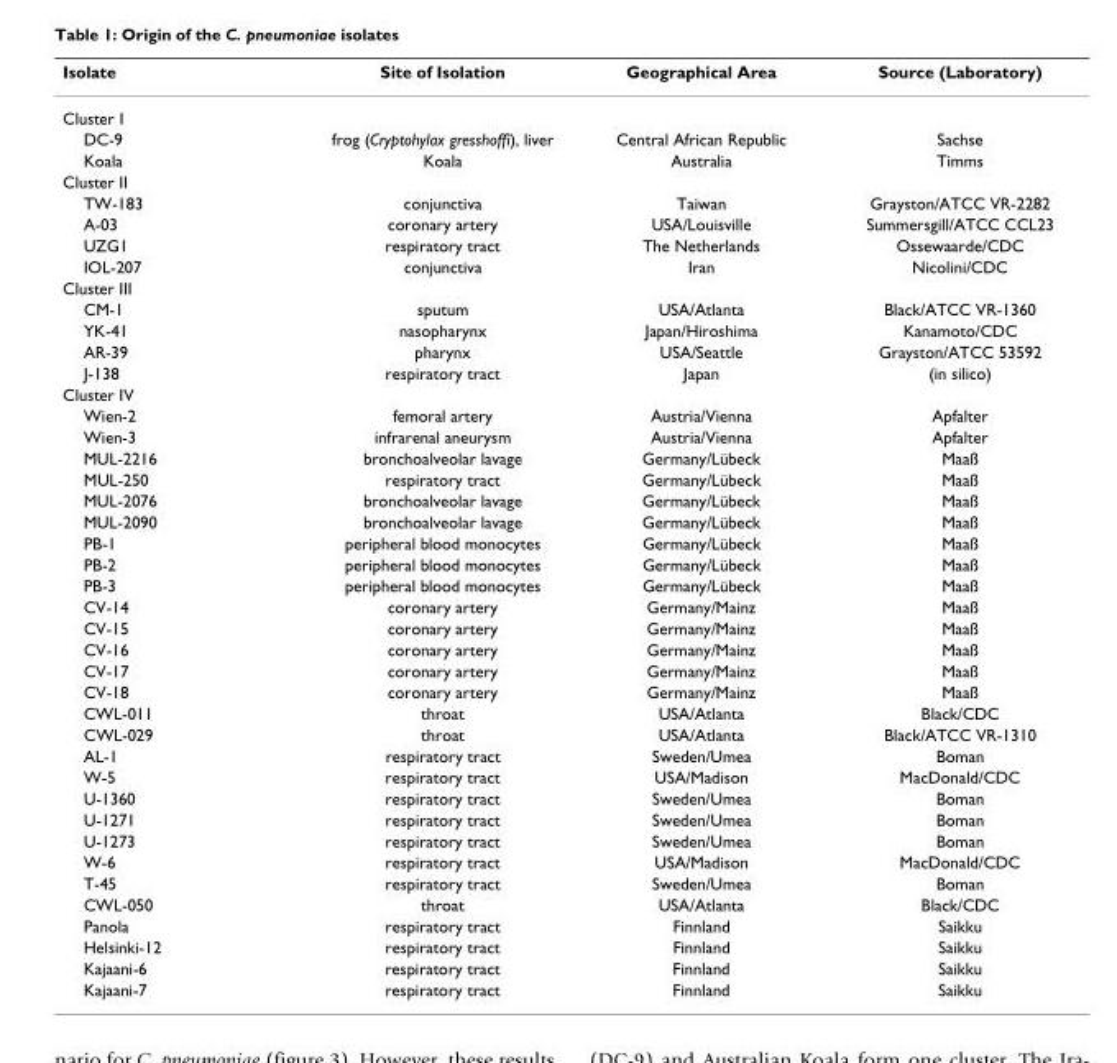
<table><thead><tr><td>Isolate</td><td>Site of Isolation</td><td>Geographical Area</td><td>Source (Laboratory)</td></tr></thead><tbody><tr><td colspan="4">Cluster I</td></tr><tr><td>DC-9</td><td>frog (Cryptohylax gresshoffi), liver</td><td>Central African Republic</td><td>Sachse</td></tr><tr><td>Koala</td><td>Koala</td><td>Australia</td><td>Timms</td></tr><tr><td colspan="4">Cluster II</td></tr><tr><td>TW-183</td><td>conjunctiva</td><td>Taiwan</td><td>Grayston/ATCC VR-2282</td></tr><tr><td>A-03</td><td>coronary artery</td><td>USA/Louisville</td><td>Summersgill/ATCC CCL23</td></tr><tr><td>UZG1</td><td>respiratory tract</td><td>The Netherlands</td><td>Ossewaarde/CDC</td></tr><tr><td>IOL-207</td><td>conjunctiva</td><td>Iran</td><td>Nicolini/CDC</td></tr><tr><td colspan="4">Cluster III</td></tr><tr><td>CM-1</td><td>sputum</td><td>USA/Atlanta</td><td>Black/ATCC VR-1360</td></tr><tr><td>YK-41</td><td>nasopharynx</td><td>Japan/Hiroshima</td><td>Kanamoto/CDC</td></tr><tr><td>AR-39</td><td>pharynx</td><td>USA/Seattle</td><td>Grayston/ATCC 53592</td></tr><tr><td>J-138</td><td>respiratory tract</td><td>Japan</td><td>(in silico)</td></tr><tr><td colspan="4">Cluster IV</td></tr><tr><td>Wien-2</td><td>femoral artery</td><td>Austria/Vienna</td><td>Apfalter</td></tr><tr><td>Wien-3</td><td>infrarenal aneurysm</td><td>Austria/Vienna</td><td>Apfalter</td></tr><tr><td>MUL-2216</td><td>bronchoalveolar lavage</td><td>Germany/Lübeck</td><td>Maaß</td></tr><tr><td>MUL-250</td><td>respiratory tract</td><td>Germany/Lübeck</td><td>Maaß</td></tr><tr><td>MUL-2076</td><td>bronchoalveolar lavage</td><td>Germany/Lübeck</td><td>Maaß</td></tr><tr><td>MUL-2090</td><td>bronchoalveolar lavage</td><td>Germany/Lübeck</td><td>Maaß</td></tr><tr><td>PB-1</td><td>peripheral blood monocytes</td><td>Germany/Lübeck</td><td>Maaß</td></tr><tr><td>PB-2</td><td>peripheral blood monocytes</td><td>Germany/Lübeck</td><td>Maaß</td></tr><tr><td>PB-3</td><td>peripheral blood monocytes</td><td>Germany/Lübeck</td><td>Maaß</td></tr><tr><td>CV-14</td><td>coronary artery</td><td>Germany/Mainz</td><td>Maaß</td></tr><tr><td>CV-15</td><td>coronary artery</td><td>Germany/Mainz</td><td>Maaß</td></tr><tr><td>CV-16</td><td>coronary artery</td><td>Germany/Mainz</td><td>Maaß</td></tr><tr><td>CV-17</td><td>coronary artery</td><td>Germany/Mainz</td><td>Maaß</td></tr><tr><td>CV-18</td><td>coronary artery</td><td>Germany/Mainz</td><td>Maaß</td></tr><tr><td>CWL-011</td><td>throat</td><td>USA/Atlanta</td><td>Black/CDC</td></tr><tr><td>CWL-029</td><td>throat</td><td>USA/Atlanta</td><td>Black/ATCC VR-1310</td></tr><tr><td>AL-1</td><td>respiratory tract</td><td>Sweden/Umea</td><td>Boman</td></tr><tr><td>W-5</td><td>respiratory tract</td><td>USA/Madison</td><td>MacDonald/CDC</td></tr><tr><td>U-1360</td><td>respiratory tract</td><td>Sweden/Umea</td><td>Boman</td></tr><tr><td>U-1271</td><td>respiratory tract</td><td>Sweden/Umea</td><td>Boman</td></tr><tr><td>U-1273</td><td>respiratory tract</td><td>Sweden/Umea</td><td>Boman</td></tr><tr><td>W-6</td><td>respiratory tract</td><td>USA/Madison</td><td>MacDonald/CDC</td></tr><tr><td>T-45</td><td>respiratory tract</td><td>Sweden/Umea</td><td>Boman</td></tr><tr><td>CWL-050</td><td>throat</td><td>USA/Atlanta</td><td>Black/CDC</td></tr><tr><td>Panola</td><td>respiratory tract</td><td>Finnland</td><td>Saikku</td></tr><tr><td>Helsinki-12</td><td>respiratory tract</td><td>Finnland</td><td>Saikku</td></tr><tr><td>Kajaani-6</td><td>respiratory tract</td><td>Finnland</td><td>Saikku</td></tr><tr><td>Kajaani-7</td><td>respiratory tract</td><td>Finnland</td><td>Saikku</td></tr></tbody></table>